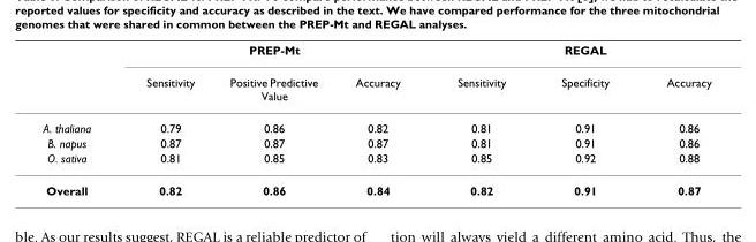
<table><thead><tr><td rowspan="2"></td><td colspan="3">PREP-Mt</td><td colspan="3">REGAL</td></tr><tr><td>Sensitivity</td><td>Positive Predictive Value</td><td>Accuracy</td><td>Sensitivity</td><td>Specificity</td><td>Accuracy</td></tr></thead><tbody><tr><td>A. thaliana</td><td>0.79</td><td>0.86</td><td>0.82</td><td>0.81</td><td>0.91</td><td>0.86</td></tr><tr><td>B. napus</td><td>0.87</td><td>0.87</td><td>0.87</td><td>0.81</td><td>0.91</td><td>0.86</td></tr><tr><td>O. sativa</td><td>0.81</td><td>0.85</td><td>0.83</td><td>0.85</td><td>0.92</td><td>0.88</td></tr><tr><td>Overall</td><td>0.82</td><td>0.86</td><td>0.84</td><td>0.82</td><td>0.91</td><td>0.87</td></tr></tbody></table>